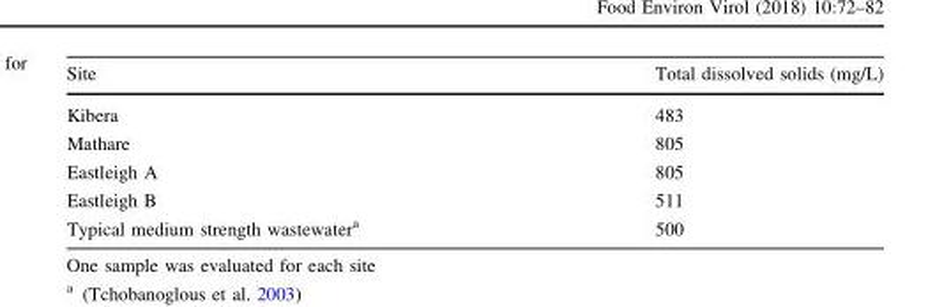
<table><thead><tr><td>Site</td><td>Total dissolved solids (mg/L)</td></tr></thead><tbody><tr><td>Kibera</td><td>483</td></tr><tr><td>Mathare</td><td>805</td></tr><tr><td>Eastleigh A</td><td>805</td></tr><tr><td>Eastleigh B</td><td>511</td></tr><tr><td>Typical medium strength wastewater<sup>a</sup></td><td>500</td></tr></tbody></table>